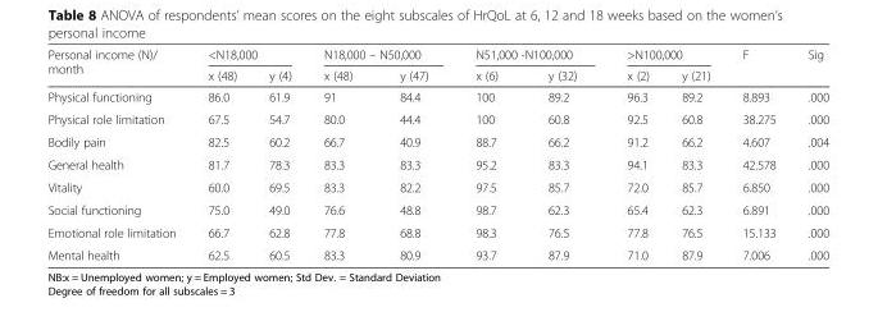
<table><thead><tr><td rowspan="2">Personal income (N)/ month</td><td colspan="2">&lt;N18,000</td><td colspan="2">N18,000 – N50,000</td><td colspan="2">N51,000 -N100,000</td><td colspan="2">&gt;N100,000</td><td rowspan="2">F</td><td rowspan="2">Sig</td></tr><tr><td>x (48)</td><td>y (4)</td><td>x (48)</td><td>y (47)</td><td>x (6)</td><td>y (32)</td><td>x (2)</td><td>y (21)</td></tr></thead><tbody><tr><td>Physical functioning</td><td>86.0</td><td>61.9</td><td>91</td><td>84.4</td><td>100</td><td>89.2</td><td>96.3</td><td>89.2</td><td>8.893</td><td>.000</td></tr><tr><td>Physical role limitation</td><td>67.5</td><td>54.7</td><td>80.0</td><td>44.4</td><td>100</td><td>60.8</td><td>92.5</td><td>60.8</td><td>38.275</td><td>.000</td></tr><tr><td>Bodily pain</td><td>82.5</td><td>60.2</td><td>66.7</td><td>40.9</td><td>88.7</td><td>66.2</td><td>91.2</td><td>66.2</td><td>4.607</td><td>.004</td></tr><tr><td>General health</td><td>81.7</td><td>78.3</td><td>83.3</td><td>83.3</td><td>95.2</td><td>83.3</td><td>94.1</td><td>83.3</td><td>42.578</td><td>.000</td></tr><tr><td>Vitality</td><td>60.0</td><td>69.5</td><td>83.3</td><td>82.2</td><td>97.5</td><td>85.7</td><td>72.0</td><td>85.7</td><td>6.850</td><td>.000</td></tr><tr><td>Social functioning</td><td>75.0</td><td>49.0</td><td>76.6</td><td>48.8</td><td>98.7</td><td>62.3</td><td>65.4</td><td>62.3</td><td>6.891</td><td>.000</td></tr><tr><td>Emotional role limitation</td><td>66.7</td><td>62.8</td><td>77.8</td><td>68.8</td><td>98.3</td><td>76.5</td><td>77.8</td><td>76.5</td><td>15.133</td><td>.000</td></tr><tr><td>Mental health</td><td>62.5</td><td>60.5</td><td>83.3</td><td>80.9</td><td>93.7</td><td>87.9</td><td>71.0</td><td>87.9</td><td>7.006</td><td>.000</td></tr></tbody></table>